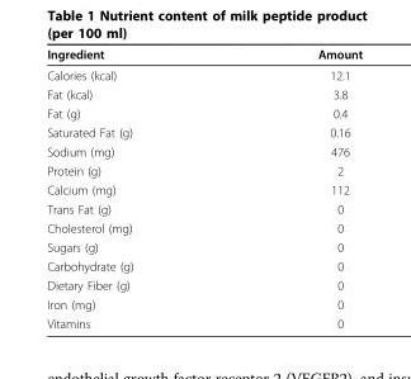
<table><thead><tr><td>Ingredient</td><td>Amount</td></tr></thead><tbody><tr><td>Calories (kcal)</td><td>12.1</td></tr><tr><td>Fat (kcal)</td><td>3.8</td></tr><tr><td>Fat (g)</td><td>0.4</td></tr><tr><td>Saturated Fat (g)</td><td>0.16</td></tr><tr><td>Sodium (mg)</td><td>476</td></tr><tr><td>Protein (g)</td><td>2</td></tr><tr><td>Calcium (mg)</td><td>112</td></tr><tr><td>Trans Fat (g)</td><td>0</td></tr><tr><td>Cholesterol (mg)</td><td>0</td></tr><tr><td>Sugars (g)</td><td>0</td></tr><tr><td>Carbohydrate (g)</td><td>0</td></tr><tr><td>Dietary Fiber (g)</td><td>0</td></tr><tr><td>Iron (mg)</td><td>0</td></tr><tr><td>Vitamins</td><td>0</td></tr></tbody></table>